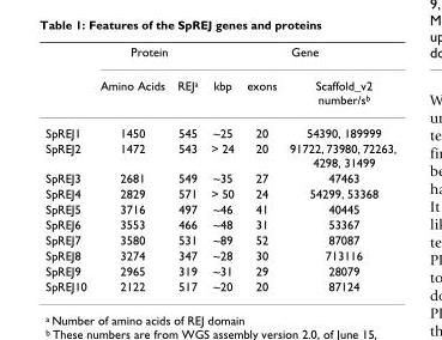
<table><thead><tr><td rowspan="2"></td><td colspan="2">Protein</td><td colspan="3">Gene</td></tr><tr><td>Amino Acids</td><td>REJ<sup>a</sup></td><td>kbp</td><td>exons</td><td>Scaffold_v2 number/s<sup>b</sup></td></tr></thead><tbody><tr><td>SpREJ1</td><td>1450</td><td>545</td><td>~25</td><td>20</td><td>54390, 189999</td></tr><tr><td>SpREJ2</td><td>1472</td><td>543</td><td>&gt; 24</td><td>20</td><td>91722, 73980, 72263, 4298, 31499</td></tr><tr><td>SpREJ3</td><td>2681</td><td>549</td><td>~35</td><td>27</td><td>47463</td></tr><tr><td>SpREJ4</td><td>2829</td><td>571</td><td>&gt; 50</td><td>24</td><td>54299, 53368</td></tr><tr><td>SpREJ5</td><td>3716</td><td>497</td><td>~46</td><td>41</td><td>40445</td></tr><tr><td>SpREJ6</td><td>3553</td><td>466</td><td>~48</td><td>31</td><td>53367</td></tr><tr><td>SpREJ7</td><td>3580</td><td>531</td><td>~89</td><td>52</td><td>87087</td></tr><tr><td>SpREJ8</td><td>3274</td><td>347</td><td>~28</td><td>30</td><td>713116</td></tr><tr><td>SpREJ9</td><td>2965</td><td>319</td><td>~31</td><td>29</td><td>28079</td></tr><tr><td>SpREJ10</td><td>2122</td><td>517</td><td>~20</td><td>20</td><td>87124</td></tr></tbody></table>